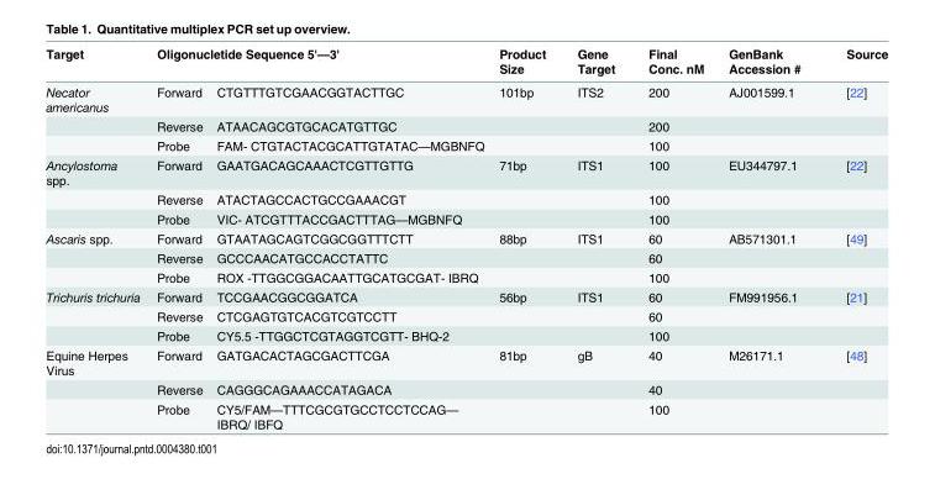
<table><thead><tr><td rowspan="2">Target Necator americanus</td><td colspan="2">Oligonucletide Sequence 5&#x27;—3&#x27;</td><td rowspan="2">Product Size 101bp</td><td rowspan="2">Gene Target ITS2</td><td rowspan="2">Final Conc. nM 200</td><td rowspan="2">GenBank Accession # AJ001599.1</td><td rowspan="2">Source [22]</td></tr><tr><td>Forward</td><td>CTGTTTGTCGAACGGTACTTGC</td></tr></thead><tbody><tr><td></td><td>Reverse</td><td>ATAACAGCGTGCACATGTTGC</td><td></td><td></td><td>200</td><td></td><td></td></tr><tr><td></td><td>Probe</td><td>FAM- CTGTACTACGCATTGTATAC—MGBNFQ</td><td></td><td></td><td>100</td><td></td><td></td></tr><tr><td rowspan="3">Ancylostoma spp.</td><td>Forward</td><td>GAATGACAGCAAACTCGTTGTTG</td><td>71bp</td><td>ITS1</td><td>100</td><td>EU344797.1</td><td>[22]</td></tr><tr><td>Reverse</td><td>ATACTAGCCACTGCCGAAACGT</td><td></td><td></td><td>100</td><td></td><td></td></tr><tr><td>Probe</td><td>VIC- ATCGTTTACCGACTTTAG—MGBNFQ</td><td></td><td></td><td>100</td><td></td><td></td></tr><tr><td rowspan="3">Ascaris spp.</td><td>Forward</td><td>GTAATAGCAGTCGGCGGTTTCTT</td><td>88bp</td><td>ITS1</td><td>60</td><td>AB571301.1</td><td>[49]</td></tr><tr><td>Reverse</td><td>GCCCAACATGCCACCTATTC</td><td></td><td></td><td>60</td><td></td><td></td></tr><tr><td>Probe</td><td>ROX -TTGGCGGACAATTGCATGCGAT- IBRQ</td><td></td><td></td><td>100</td><td></td><td></td></tr><tr><td rowspan="3">Trichuris trichuria</td><td>Forward</td><td>TCCGAACGGCGGATCA</td><td>56bp</td><td>ITS1</td><td>60</td><td>FM991956.1</td><td>[21]</td></tr><tr><td>Reverse</td><td>CTCGAGTGTCACGTCGTCCTT</td><td></td><td></td><td>60</td><td></td><td></td></tr><tr><td>Probe</td><td>CY5.5 -TTGGCTCGTAGGTCGTT- BHQ-2</td><td></td><td></td><td>100</td><td></td><td></td></tr><tr><td rowspan="3">Equine Herpes Virus</td><td>Forward</td><td>GATGACACTAGCGACTTCGA</td><td>81bp</td><td>gB</td><td>40</td><td>M26171.1</td><td>[48]</td></tr><tr><td>Reverse</td><td>CAGGGCAGAAACCATAGACA</td><td></td><td></td><td>40</td><td></td><td></td></tr><tr><td>Probe</td><td>CY5/FAM—TTTCGCGTGCCTCCTCCAG— IBRQ/ IBFQ</td><td></td><td></td><td>100</td><td></td><td></td></tr></tbody></table>